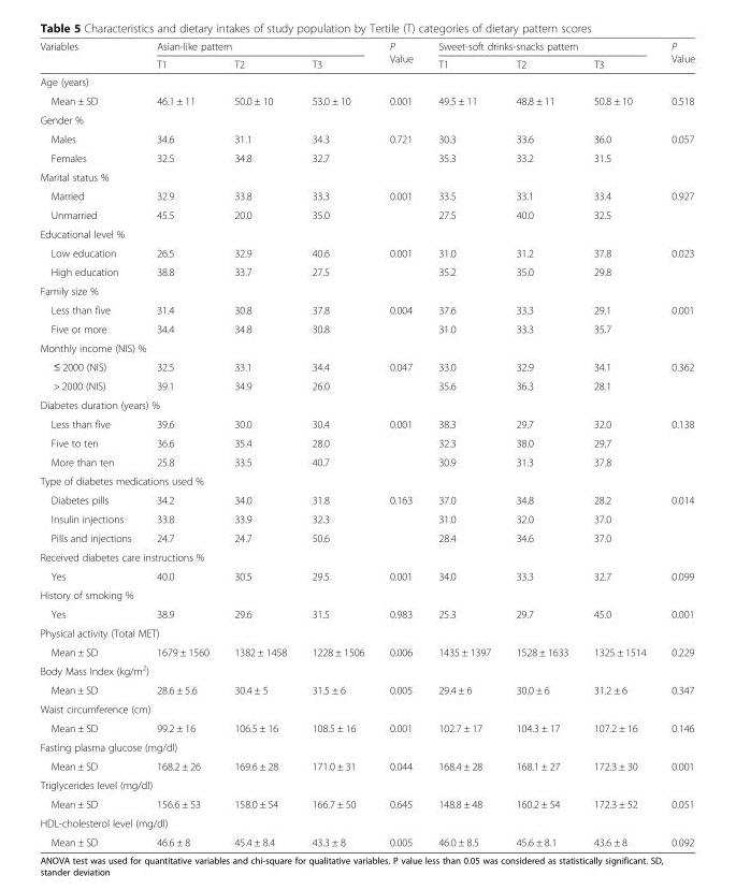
<table><thead><tr><td rowspan="2">Variables</td><td colspan="3">Asian-like pattern</td><td rowspan="2">P Value</td><td colspan="3">Sweet-soft drinks-snacks pattern</td><td rowspan="2">P Value</td></tr><tr><td>T1</td><td>T2</td><td>T3</td><td>T1</td><td>T2</td><td>T3</td></tr></thead><tbody><tr><td colspan="9">Age (years)</td></tr><tr><td>Mean ± SD</td><td>46.1 ± 11</td><td>50.0 ± 10</td><td>53.0 ± 10</td><td>0.001</td><td>49.5 ± 11</td><td>48.8 ± 11</td><td>50.8 ± 10</td><td>0.518</td></tr><tr><td colspan="9">Gender %</td></tr><tr><td>Males</td><td>34.6</td><td>31.1</td><td>34.3</td><td rowspan="2">0.721</td><td>30.3</td><td>33.6</td><td>36.0</td><td rowspan="2">0.057</td></tr><tr><td>Females</td><td>32.5</td><td>34.8</td><td>32.7</td><td>35.3</td><td>33.2</td><td>31.5</td></tr><tr><td colspan="9">Marital status %</td></tr><tr><td>Married</td><td>32.9</td><td>33.8</td><td>33.3</td><td rowspan="2">0.001</td><td>33.5</td><td>33.1</td><td>33.4</td><td rowspan="2">0.927</td></tr><tr><td>Unmarried</td><td>45.5</td><td>20.0</td><td>35.0</td><td>27.5</td><td>40.0</td><td>32.5</td></tr><tr><td colspan="9">Educational level %</td></tr><tr><td>Low education</td><td>26.5</td><td>32.9</td><td>40.6</td><td rowspan="2">0.001</td><td>31.0</td><td>31.2</td><td>37.8</td><td rowspan="2">0.023</td></tr><tr><td>High education</td><td>38.8</td><td>33.7</td><td>27.5</td><td>35.2</td><td>35.0</td><td>29.8</td></tr><tr><td colspan="9">Family size %</td></tr><tr><td>Less than five</td><td>31.4</td><td>30.8</td><td>37.8</td><td rowspan="2">0.004</td><td>37.6</td><td>33.3</td><td>29.1</td><td rowspan="2">0.001</td></tr><tr><td>Five or more</td><td>34.4</td><td>34.8</td><td>30.8</td><td>31.0</td><td>33.3</td><td>35.7</td></tr><tr><td colspan="9">Monthly income (NIS) %</td></tr><tr><td>≤ 2000 (NIS)</td><td>32.5</td><td>33.1</td><td>34.4</td><td rowspan="2">0.047</td><td>33.0</td><td>32.9</td><td>34.1</td><td rowspan="2">0.362</td></tr><tr><td>&gt; 2000 (NIS)</td><td>39.1</td><td>34.9</td><td>26.0</td><td>35.6</td><td>36.3</td><td>28.1</td></tr><tr><td colspan="9">Diabetes duration (years) %</td></tr><tr><td>Less than five</td><td>39.6</td><td>30.0</td><td>30.4</td><td rowspan="3">0.001</td><td>38.3</td><td>29.7</td><td>32.0</td><td rowspan="3">0.138</td></tr><tr><td>Five to ten</td><td>36.6</td><td>35.4</td><td>28.0</td><td>32.3</td><td>38.0</td><td>29.7</td></tr><tr><td>More than ten</td><td>25.8</td><td>33.5</td><td>40.7</td><td>30.9</td><td>31.3</td><td>37.8</td></tr><tr><td colspan="9">Type of diabetes medications used %</td></tr><tr><td>Diabetes pills</td><td>34.2</td><td>34.0</td><td>31.8</td><td rowspan="3">0.163</td><td>37.0</td><td>34.8</td><td>28.2</td><td rowspan="3">0.014</td></tr><tr><td>Insulin injections</td><td>33.8</td><td>33.9</td><td>32.3</td><td>31.0</td><td>32.0</td><td>37.0</td></tr><tr><td>Pills and injections</td><td>24.7</td><td>24.7</td><td>50.6</td><td>28.4</td><td>34.6</td><td>37.0</td></tr><tr><td colspan="9">Received diabetes care instructions %</td></tr><tr><td>Yes</td><td>40.0</td><td>30.5</td><td>29.5</td><td>0.001</td><td>34.0</td><td>33.3</td><td>32.7</td><td>0.099</td></tr><tr><td colspan="9">History of smoking %</td></tr><tr><td>Yes</td><td>38.9</td><td>29.6</td><td>31.5</td><td>0.983</td><td>25.3</td><td>29.7</td><td>45.0</td><td>0.001</td></tr><tr><td colspan="9">Physical activity (Total MET)</td></tr><tr><td>Mean ± SD</td><td>1679 ± 1560</td><td>1382 ± 1458</td><td>1228 ± 1506</td><td>0.006</td><td>1435 ± 1397</td><td>1528 ± 1633</td><td>1325 ± 1514</td><td>0.229</td></tr><tr><td colspan="9">Body Mass Index (kg/m<sup>2</sup>)</td></tr><tr><td>Mean ± SD</td><td>28.6 ± 5.6</td><td>30.4 ± 5</td><td>31.5 ± 6</td><td>0.005</td><td>29.4 ± 6</td><td>30.0 ± 6</td><td>31.2 ± 6</td><td>0.347</td></tr><tr><td colspan="9">Waist circumference (cm)</td></tr><tr><td>Mean ± SD</td><td>99.2 ± 16</td><td>106.5 ± 16</td><td>108.5 ± 16</td><td>0.001</td><td>102.7 ± 17</td><td>104.3 ± 17</td><td>107.2 ± 16</td><td>0.146</td></tr><tr><td colspan="9">Fasting plasma glucose (mg/dl)</td></tr><tr><td>Mean ± SD</td><td>168.2 ± 26</td><td>169.6 ± 28</td><td>171.0 ± 31</td><td>0.044</td><td>168.4 ± 28</td><td>168.1 ± 27</td><td>172.3 ± 30</td><td>0.001</td></tr><tr><td colspan="9">Triglycerides level (mg/dl)</td></tr><tr><td>Mean ± SD</td><td>156.6 ± 53</td><td>158.0 ± 54</td><td>166.7 ± 50</td><td>0.645</td><td>148.8 ± 48</td><td>160.2 ± 54</td><td>172.3 ± 52</td><td>0.051</td></tr><tr><td colspan="9">HDL-cholesterol level (mg/dl)</td></tr><tr><td>Mean ± SD</td><td>46.6 ± 8</td><td>45.4 ± 8.4</td><td>43.3 ± 8</td><td>0.005</td><td>46.0 ± 8.5</td><td>45.6 ± 8.1</td><td>43.6 ± 8</td><td>0.092</td></tr></tbody></table>